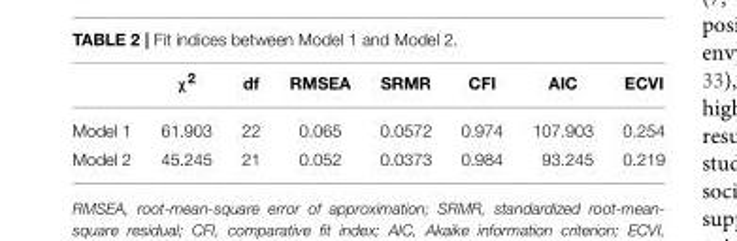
<table><thead><tr><td></td><td>χ<sup>2</sup></td><td>df</td><td>RMSEA</td><td>SRMR</td><td>CFI</td><td>AIC</td><td>ECVI</td></tr></thead><tbody><tr><td>Model 1</td><td>61.903</td><td>22</td><td>0.065</td><td>0.0572</td><td>0.974</td><td>107.903</td><td>0.254</td></tr><tr><td>Model 2</td><td>45.245</td><td>21</td><td>0.052</td><td>0.0373</td><td>0.984</td><td>93.245</td><td>0.219</td></tr></tbody></table>